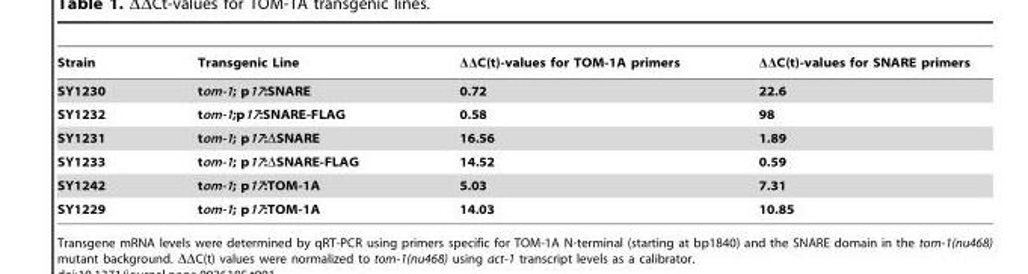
<table><thead><tr><td>Strain</td><td>Transgenic Line</td><td>ΔΔC(t)-values for TOM-1A primers</td><td>ΔΔC(t)-values for SNARE primers</td></tr></thead><tbody><tr><td>SY1230</td><td>tom-1; p17:SNARE</td><td>0.72</td><td>22.6</td></tr><tr><td>SY1232</td><td>tom-1;p17:SNARE-FLAG</td><td>0.58</td><td>98</td></tr><tr><td>SY1231</td><td>tom-1; p17:ΔSNARE</td><td>16.56</td><td>1.89</td></tr><tr><td>SY1233</td><td>tom-1; p17:ΔSNARE-FLAG</td><td>14.52</td><td>0.59</td></tr><tr><td>SY1242</td><td>tom-1; p17:TOM-1A</td><td>5.03</td><td>7.31</td></tr><tr><td>SY1229</td><td>tom-1; p17:TOM-1A</td><td>14.03</td><td>10.85</td></tr></tbody></table>